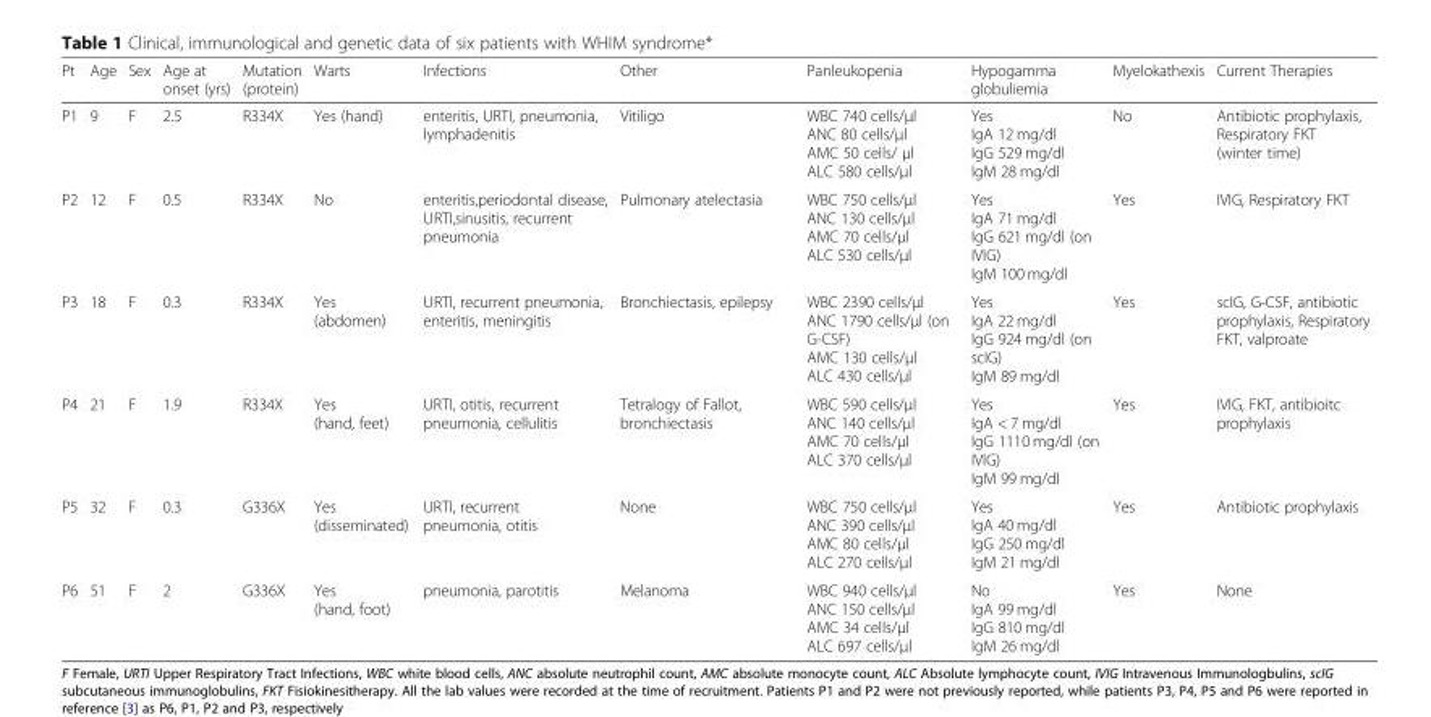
<table><thead><tr><td>Pt</td><td>Age</td><td>Sex</td><td>Age at onset (yrs)</td><td>Mutation (protein)</td><td>Warts</td><td>Infections</td><td>Other</td><td>Panleukopenia</td><td>Hypogamma globuliemia</td><td>Myelokathexis</td><td>Current Therapies</td></tr></thead><tbody><tr><td>P1</td><td>9</td><td>F</td><td>2.5</td><td>R334X</td><td>Yes (hand)</td><td>enteritis, URTI, pneumonia, lymphadenitis</td><td>Vitiligo</td><td>WBC 740 cells/μl ANC 80 cells/μl AMC 50 cells/ μl ALC 580 cells/μl</td><td>Yes IgA 12 mg/dl IgG 529 mg/dl IgM 28 mg/dl</td><td>No</td><td>Antibiotic prophylaxis, Respiratory FKT (winter time)</td></tr><tr><td>P2</td><td>12</td><td>F</td><td>0.5</td><td>R334X</td><td>No</td><td>enteritis,periodontal disease, URTI,sinusitis, recurrent pneumonia</td><td>Pulmonary atelectasia</td><td>WBC 750 cells/μl ANC 130 cells/μl AMC 70 cells/μl ALC 530 cells/μl</td><td>Yes IgA 71 mg/dl IgG 621 mg/dl (on IVIG) IgM 100 mg/dl</td><td>Yes</td><td>IVIG, Respiratory FKT</td></tr><tr><td>P3</td><td>18</td><td>F</td><td>0.3</td><td>R334X</td><td>Yes (abdomen)</td><td>URTI, recurrent pneumonia, enteritis, meningitis</td><td>Bronchiectasis, epilepsy</td><td>WBC 2390 cells/μl ANC 1790 cells/μl (on G-CSF) AMC 130 cells/μl ALC 430 cells/μl</td><td>Yes IgA 22 mg/dl IgG 924 mg/dl (on scIG) IgM 89 mg/dl</td><td>Yes</td><td>scIG, G-CSF, antibiotic prophylaxis, Respiratory FKT, valproate</td></tr><tr><td>P4</td><td>21</td><td>F</td><td>1.9</td><td>R334X</td><td>Yes (hand, feet)</td><td>URTI, otitis, recurrent pneumonia, cellulitis</td><td>Tetralogy of Fallot, bronchiectasis</td><td>WBC 590 cells/μl ANC 140 cells/μl AMC 70 cells/μl ALC 370 cells/μl</td><td>Yes IgA &lt; 7 mg/dl IgG 1110 mg/dl (on IVIG) IgM 99 mg/dl</td><td>Yes</td><td>IVIG, FKT, antibioitc prophylaxis</td></tr><tr><td>P5</td><td>32</td><td>F</td><td>0.3</td><td>G336X</td><td>Yes (disseminated)</td><td>URTI, recurrent pneumonia, otitis</td><td>None</td><td>WBC 750 cells/μl ANC 390 cells/μl AMC 80 cells/μl ALC 270 cells/μl</td><td>Yes IgA 40 mg/dl IgG 250 mg/dl IgM 21 mg/dl</td><td>Yes</td><td>Antibiotic prophylaxis</td></tr><tr><td>P6</td><td>51</td><td>F</td><td>2</td><td>G336X</td><td>Yes (hand, foot)</td><td>pneumonia, parotitis</td><td>Melanoma</td><td>WBC 940 cells/μl ANC 150 cells/μl AMC 34 cells/μl ALC 697 cells/μl</td><td>No IgA 99 mg/dl IgG 810 mg/dl IgM 26 mg/dl</td><td>Yes</td><td>None</td></tr></tbody></table>